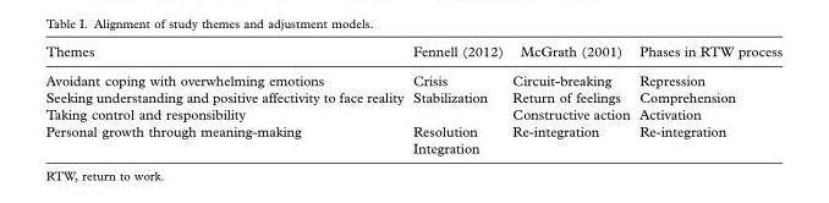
<table><thead><tr><td>Themes</td><td>Fennell (2012)</td><td>McGrath (2001)</td><td>Phases in RTW process</td></tr></thead><tbody><tr><td>Avoidant coping with overwhelming emotions</td><td>Crisis</td><td>Circuit-breaking</td><td>Repression</td></tr><tr><td>Seeking understanding and positive affectivity to face reality</td><td>Stabilization</td><td>Return of feelings</td><td>Comprehension</td></tr><tr><td>Taking control and responsibility</td><td></td><td>Constructive action</td><td>Activation</td></tr><tr><td rowspan="2">Personal growth through meaning-making</td><td>Resolution</td><td>Re-integration</td><td>Re-integration</td></tr><tr><td>Integration</td><td></td><td></td></tr></tbody></table>